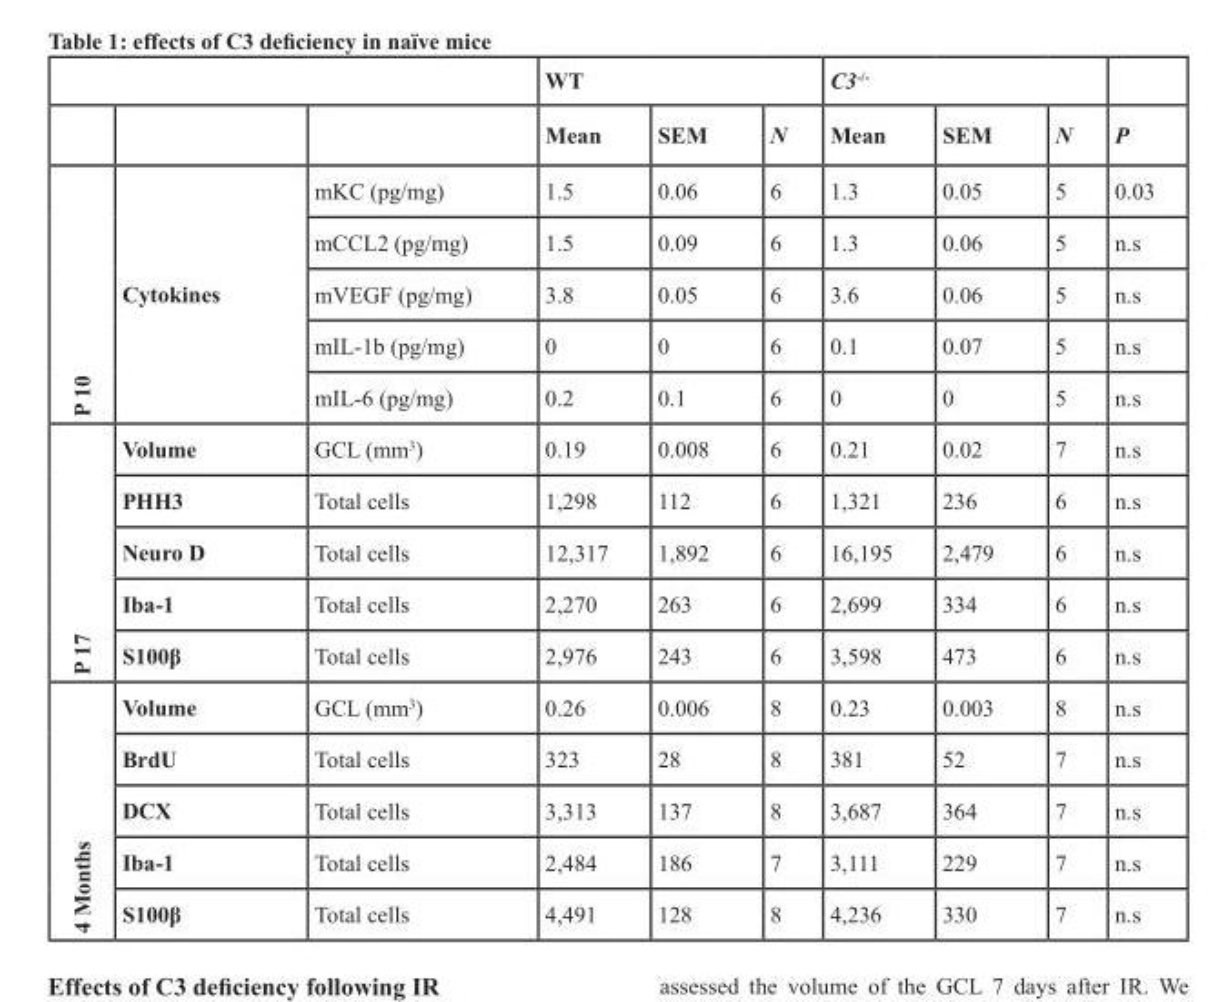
<table><thead><tr><td rowspan="2"></td><td rowspan="2"></td><td rowspan="2"></td><td colspan="3">WT</td><td colspan="3">C3-/-</td><td rowspan="2">P</td></tr><tr><td>Mean</td><td>SEM</td><td>N</td><td>Mean</td><td>SEM</td><td>N</td></tr></thead><tbody><tr><td rowspan="5">P 10</td><td rowspan="5">Cytokines</td><td>mKC (pg/mg)</td><td>1.5</td><td>0.06</td><td>6</td><td>1.3</td><td>0.05</td><td>5</td><td>0.03</td></tr><tr><td>mCCL2 (pg/mg)</td><td>1.5</td><td>0.09</td><td>6</td><td>1.3</td><td>0.06</td><td>5</td><td>n.s</td></tr><tr><td>mVEGF (pg/mg)</td><td>3.8</td><td>0.05</td><td>6</td><td>3.6</td><td>0.06</td><td>5</td><td>n.s</td></tr><tr><td>mIL-1b (pg/mg)</td><td>0</td><td>0</td><td>6</td><td>0.1</td><td>0.07</td><td>5</td><td>n.s</td></tr><tr><td>mIL-6 (pg/mg)</td><td>0.2</td><td>0.1</td><td>6</td><td>0</td><td>0</td><td>5</td><td>n.s</td></tr><tr><td rowspan="5">P 17</td><td>Volume</td><td>GCL (mm<sup>3</sup>)</td><td>0.19</td><td>0.008</td><td>6</td><td>0.21</td><td>0.02</td><td>7</td><td>n.s</td></tr><tr><td>PHH3</td><td>Total cells</td><td>1,298</td><td>112</td><td>6</td><td>1,321</td><td>236</td><td>6</td><td>n.s</td></tr><tr><td>Neuro D</td><td>Total cells</td><td>12,317</td><td>1,892</td><td>6</td><td>16,195</td><td>2,479</td><td>6</td><td>n.s</td></tr><tr><td>Iba-1</td><td>Total cells</td><td>2,270</td><td>263</td><td>6</td><td>2,699</td><td>334</td><td>6</td><td>n.s</td></tr><tr><td>S100β</td><td>Total cells</td><td>2,976</td><td>243</td><td>6</td><td>3,598</td><td>473</td><td>6</td><td>n.s</td></tr><tr><td rowspan="5">4 Months</td><td>Volume</td><td>GCL (mm<sup>3</sup>)</td><td>0.26</td><td>0.006</td><td>8</td><td>0.23</td><td>0.003</td><td>8</td><td>n.s</td></tr><tr><td>BrdU</td><td>Total cells</td><td>323</td><td>28</td><td>8</td><td>381</td><td>52</td><td>7</td><td>n.s</td></tr><tr><td>DCX</td><td>Total cells</td><td>3,313</td><td>137</td><td>8</td><td>3,687</td><td>364</td><td>7</td><td>n.s</td></tr><tr><td>Iba-1</td><td>Total cells</td><td>2,484</td><td>186</td><td>7</td><td>3,111</td><td>229</td><td>7</td><td>n.s</td></tr><tr><td>S100β</td><td>Total cells</td><td>4,491</td><td>128</td><td>8</td><td>4,236</td><td>330</td><td>7</td><td>n.s</td></tr></tbody></table>